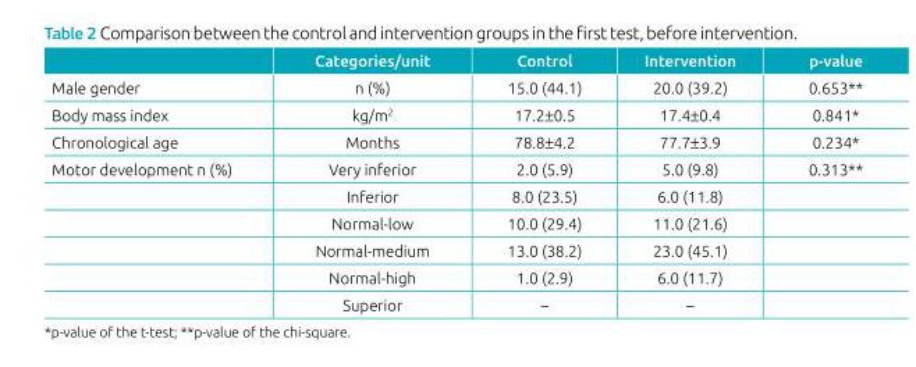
<table><thead><tr><td></td><td>Categories/unit</td><td>Control</td><td>Intervention</td><td>p‑value</td></tr></thead><tbody><tr><td>Male gender</td><td>n (%)</td><td>15.0 (44.1)</td><td>20.0 (39.2)</td><td>0.653**</td></tr><tr><td>Body mass index</td><td>kg/m<sup>2</sup></td><td>17.2±0.5</td><td>17.4±0.4</td><td>0.841*</td></tr><tr><td>Chronological age</td><td>Months</td><td>78.8±4.2</td><td>77.7±3.9</td><td>0.234*</td></tr><tr><td rowspan="6">Motor development n (%)</td><td>Very inferior</td><td>2.0 (5.9)</td><td>5.0 (9.8)</td><td>0.313**</td></tr><tr><td>Inferior</td><td>8.0 (23.5)</td><td>6.0 (11.8)</td><td></td></tr><tr><td>Normal‑low</td><td>10.0 (29.4)</td><td>11.0 (21.6)</td><td></td></tr><tr><td>Normal‑medium</td><td>13.0 (38.2)</td><td>23.0 (45.1)</td><td></td></tr><tr><td>Normal‑high</td><td>1.0 (2.9)</td><td>6.0 (11.7)</td><td></td></tr><tr><td>Superior</td><td>–</td><td>–</td><td></td></tr></tbody></table>